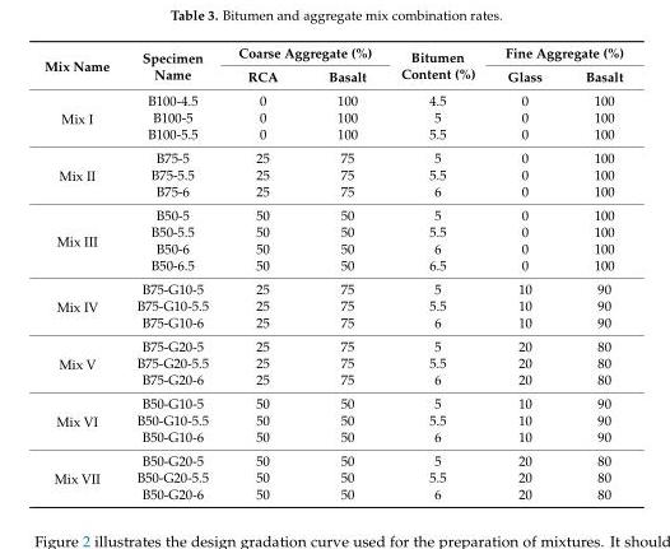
<table><thead><tr><td rowspan="2">Mix Name</td><td rowspan="2">Specimen Name</td><td colspan="2">Coarse Aggregate (%)</td><td rowspan="2">Bitumen Content (%)</td><td colspan="2">Fine Aggregate (%)</td></tr><tr><td>RCA</td><td>Basalt</td><td>Glass</td><td>Basalt</td></tr></thead><tbody><tr><td rowspan="3">Mix I</td><td>B100-4.5</td><td>0</td><td>100</td><td>4.5</td><td>0</td><td>100</td></tr><tr><td>B100-5</td><td>0</td><td>100</td><td>5</td><td>0</td><td>100</td></tr><tr><td>B100-5.5</td><td>0</td><td>100</td><td>5.5</td><td>0</td><td>100</td></tr><tr><td rowspan="3">Mix II</td><td>B75-5</td><td>25</td><td>75</td><td>5</td><td>0</td><td>100</td></tr><tr><td>B75-5.5</td><td>25</td><td>75</td><td>5.5</td><td>0</td><td>100</td></tr><tr><td>B75-6</td><td>25</td><td>75</td><td>6</td><td>0</td><td>100</td></tr><tr><td rowspan="4">Mix III</td><td>B50-5</td><td>50</td><td>50</td><td>5</td><td>0</td><td>100</td></tr><tr><td>B50-5.5</td><td>50</td><td>50</td><td>5.5</td><td>0</td><td>100</td></tr><tr><td>B50-6</td><td>50</td><td>50</td><td>6</td><td>0</td><td>100</td></tr><tr><td>B50-6.5</td><td>50</td><td>50</td><td>6.5</td><td>0</td><td>100</td></tr><tr><td rowspan="3">Mix IV</td><td>B75-G10-5</td><td>25</td><td>75</td><td>5</td><td>10</td><td>90</td></tr><tr><td>B75-G10-5.5</td><td>25</td><td>75</td><td>5.5</td><td>10</td><td>90</td></tr><tr><td>B75-G10-6</td><td>25</td><td>75</td><td>6</td><td>10</td><td>90</td></tr><tr><td rowspan="3">Mix V</td><td>B75-G20-5</td><td>25</td><td>75</td><td>5</td><td>20</td><td>80</td></tr><tr><td>B75-G20-5.5</td><td>25</td><td>75</td><td>5.5</td><td>20</td><td>80</td></tr><tr><td>B75-G20-6</td><td>25</td><td>75</td><td>6</td><td>20</td><td>80</td></tr><tr><td rowspan="3">Mix VI</td><td>B50-G10-5</td><td>50</td><td>50</td><td>5</td><td>10</td><td>90</td></tr><tr><td>B50-G10-5.5</td><td>50</td><td>50</td><td>5.5</td><td>10</td><td>90</td></tr><tr><td>B50-G10-6</td><td>50</td><td>50</td><td>6</td><td>10</td><td>90</td></tr><tr><td rowspan="3">Mix VII</td><td>B50-G20-5</td><td>50</td><td>50</td><td>5</td><td>20</td><td>80</td></tr><tr><td>B50-G20-5.5</td><td>50</td><td>50</td><td>5.5</td><td>20</td><td>80</td></tr><tr><td>B50-G20-6</td><td>50</td><td>50</td><td>6</td><td>20</td><td>80</td></tr></tbody></table>